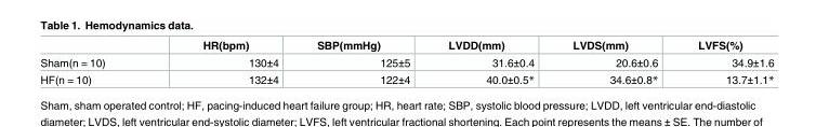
<table><thead><tr><td></td><td>HR(bpm)</td><td>SBP(mmHg)</td><td>LVDD(mm)</td><td>LVDS(mm)</td><td>LVFS(%)</td></tr></thead><tbody><tr><td>Sham(n = 10)</td><td>130±4</td><td>125±5</td><td>31.6±0.4</td><td>20.6±0.6</td><td>34.9±1.6</td></tr><tr><td>HF(n = 10)</td><td>132±4</td><td>122±4</td><td>40.0±0.5*</td><td>34.6±0.8*</td><td>13.7±1.1*</td></tr></tbody></table>